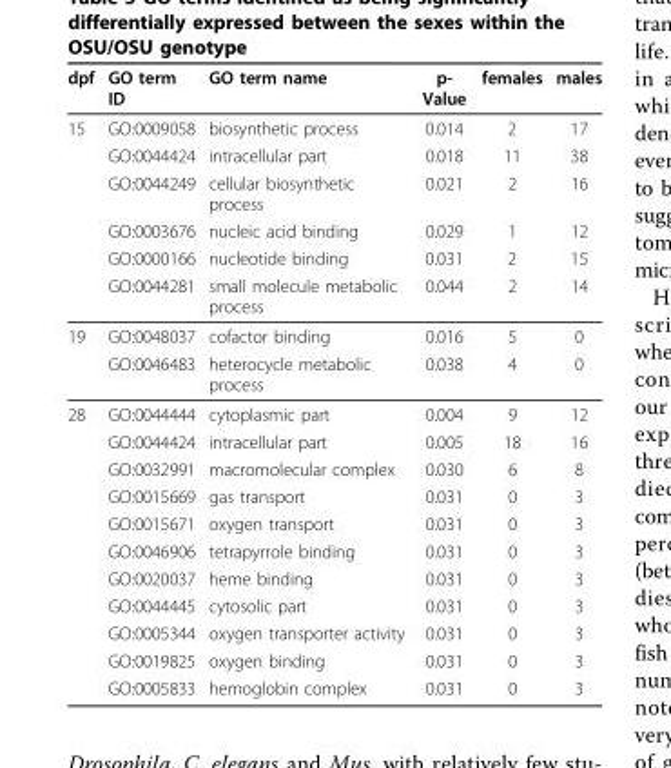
<table><thead><tr><td>dpf</td><td>GO term ID</td><td>GO term name</td><td>p- Value</td><td>females</td><td>males</td></tr></thead><tbody><tr><td rowspan="6">15</td><td>GO:0009058</td><td>biosynthetic process</td><td>0.014</td><td>2</td><td>17</td></tr><tr><td>GO:0044424</td><td>intracellular part</td><td>0.018</td><td>11</td><td>38</td></tr><tr><td>GO:0044249</td><td>cellular biosynthetic process</td><td>0.021</td><td>2</td><td>16</td></tr><tr><td>GO:0003676</td><td>nucleic acid binding</td><td>0.029</td><td>1</td><td>12</td></tr><tr><td>GO:0000166</td><td>nucleotide binding</td><td>0.031</td><td>2</td><td>15</td></tr><tr><td>GO:0044281</td><td>small molecule metabolic process</td><td>0.044</td><td>2</td><td>14</td></tr><tr><td rowspan="2">19</td><td>GO:0048037</td><td>cofactor binding</td><td>0.016</td><td>5</td><td>0</td></tr><tr><td>GO:0046483</td><td>heterocycle metabolic process</td><td>0.038</td><td>4</td><td>0</td></tr><tr><td rowspan="11">28</td><td>GO:0044444</td><td>cytoplasmic part</td><td>0.004</td><td>9</td><td>12</td></tr><tr><td>GO:0044424</td><td>intracellular part</td><td>0.005</td><td>18</td><td>16</td></tr><tr><td>GO:0032991</td><td>macromolecular complex</td><td>0.030</td><td>6</td><td>8</td></tr><tr><td>GO:0015669</td><td>gas transport</td><td>0.031</td><td>0</td><td>3</td></tr><tr><td>GO:0015671</td><td>oxygen transport</td><td>0.031</td><td>0</td><td>3</td></tr><tr><td>GO:0046906</td><td>tetrapyrrole binding</td><td>0.031</td><td>0</td><td>3</td></tr><tr><td>GO:0020037</td><td>heme binding</td><td>0.031</td><td>0</td><td>3</td></tr><tr><td>GO:0044445</td><td>cytosolic part</td><td>0.031</td><td>0</td><td>3</td></tr><tr><td>GO:0005344</td><td>oxygen transporter activity</td><td>0.031</td><td>0</td><td>3</td></tr><tr><td>GO:0019825</td><td>oxygen binding</td><td>0.031</td><td>0</td><td>3</td></tr><tr><td>GO:0005833</td><td>hemoglobin complex</td><td>0.031</td><td>0</td><td>3</td></tr></tbody></table>